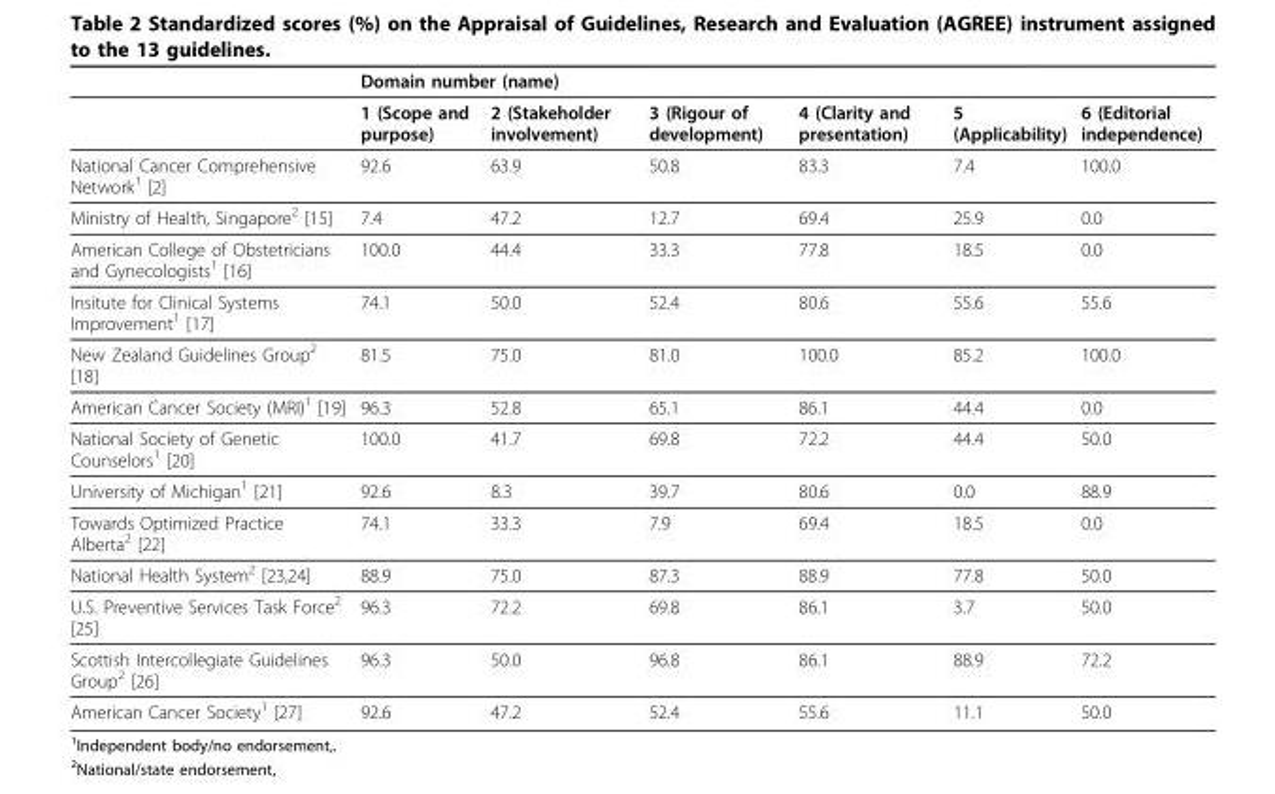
<table><thead><tr><td rowspan="2"></td><td colspan="6">Domain number (name)</td></tr><tr><td>1 (Scope and purpose)</td><td>2 (Stakeholder involvement)</td><td>3 (Rigour of development)</td><td>4 (Clarity and presentation)</td><td>5 (Applicability)</td><td>6 (Editorial independence)</td></tr></thead><tbody><tr><td>National Cancer Comprehensive Network<sup>1</sup> [2]</td><td>92.6</td><td>63.9</td><td>50.8</td><td>83.3</td><td>7.4</td><td>100.0</td></tr><tr><td>Ministry of Health, Singapore<sup>2</sup> [15]</td><td>7.4</td><td>47.2</td><td>12.7</td><td>69.4</td><td>25.9</td><td>0.0</td></tr><tr><td>American College of Obstetricians and Gynecologists<sup>1</sup> [16]</td><td>100.0</td><td>44.4</td><td>33.3</td><td>77.8</td><td>18.5</td><td>0.0</td></tr><tr><td>Insitute for Clinical Systems Improvement<sup>1</sup> [17]</td><td>74.1</td><td>50.0</td><td>52.4</td><td>80.6</td><td>55.6</td><td>55.6</td></tr><tr><td>New Zealand Guidelines Group<sup>2</sup> [18]</td><td>81.5</td><td>75.0</td><td>81.0</td><td>100.0</td><td>85.2</td><td>100.0</td></tr><tr><td>American Cancer Society (MRI)<sup>1</sup> [19]</td><td>96.3</td><td>52.8</td><td>65.1</td><td>86.1</td><td>44.4</td><td>0.0</td></tr><tr><td>National Society of Genetic Counselors<sup>1</sup> [20]</td><td>100.0</td><td>41.7</td><td>69.8</td><td>72.2</td><td>44.4</td><td>50.0</td></tr><tr><td>University of Michigan<sup>1</sup> [21]</td><td>92.6</td><td>8.3</td><td>39.7</td><td>80.6</td><td>0.0</td><td>88.9</td></tr><tr><td>Towards Optimized Practice Alberta<sup>2</sup> [22]</td><td>74.1</td><td>33.3</td><td>7.9</td><td>69.4</td><td>18.5</td><td>0.0</td></tr><tr><td>National Health System<sup>2</sup> [23,24]</td><td>88.9</td><td>75.0</td><td>87.3</td><td>88.9</td><td>77.8</td><td>50.0</td></tr><tr><td>U.S. Preventive Services Task Force<sup>2</sup> [25]</td><td>96.3</td><td>72.2</td><td>69.8</td><td>86.1</td><td>3.7</td><td>50.0</td></tr><tr><td>Scottish Intercollegiate Guidelines Group<sup>2</sup> [26]</td><td>96.3</td><td>50.0</td><td>96.8</td><td>86.1</td><td>88.9</td><td>72.2</td></tr><tr><td>American Cancer Society<sup>1</sup> [27]</td><td>92.6</td><td>47.2</td><td>52.4</td><td>55.6</td><td>11.1</td><td>50.0</td></tr></tbody></table>